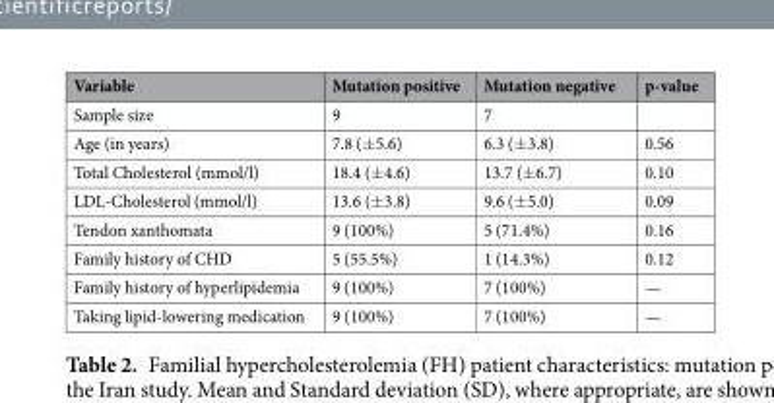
<table><thead><tr><td>Variable</td><td>Mutation positive</td><td>Mutation negative</td><td>p-value</td></tr></thead><tbody><tr><td>Sample size</td><td>9</td><td>7</td><td></td></tr><tr><td>Age (in years)</td><td>7.8 (±5.6)</td><td>6.3 (±3.8)</td><td>0.56</td></tr><tr><td>Total Cholesterol (mmol/l)</td><td>18.4 (±4.6)</td><td>13.7 (±6.7)</td><td>0.10</td></tr><tr><td>LDL-Cholesterol (mmol/l)</td><td>13.6 (±3.8)</td><td>9.6 (±5.0)</td><td>0.09</td></tr><tr><td>Tendon xanthomata</td><td>9 (100%)</td><td>5 (71.4%)</td><td>0.16</td></tr><tr><td>Family history of CHD</td><td>5 (55.5%)</td><td>1 (14.3%)</td><td>0.12</td></tr><tr><td>Family history of hyperlipidemia</td><td>9 (100%)</td><td>7 (100%)</td><td>—</td></tr><tr><td>Taking lipid-lowering medication</td><td>9 (100%)</td><td>7 (100%)</td><td>—</td></tr></tbody></table>